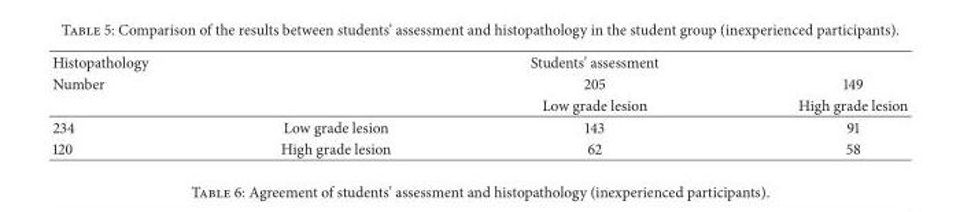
<table><thead><tr><td rowspan="3">Histopathology Number</td><td rowspan="3"></td><td rowspan="3">Students’ assessment 205 Low grade lesion</td><td rowspan="3">149 High grade lesion</td></tr><tr></tr><tr></tr></thead><tbody><tr><td>234</td><td>Low grade lesion</td><td>143</td><td>91</td></tr><tr><td>120</td><td>High grade lesion</td><td>62</td><td>58</td></tr></tbody></table>